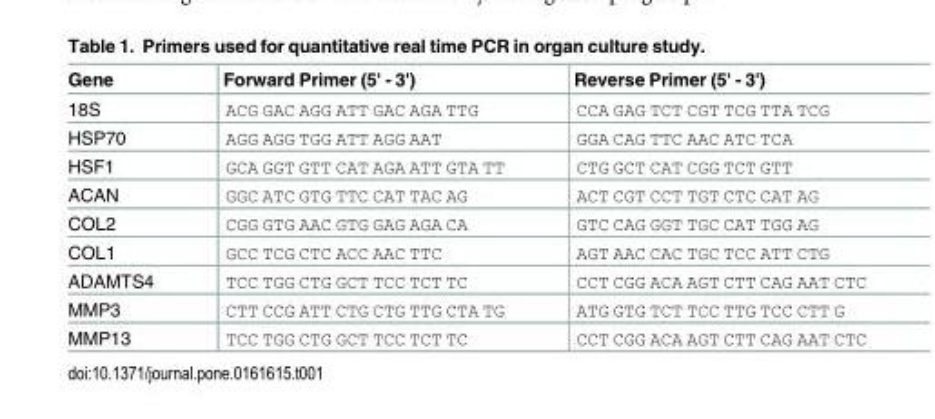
<table><thead><tr><td>Gene</td><td>Forward Primer (5&#x27; - 3&#x27;)</td><td>Reverse Primer (5&#x27; - 3&#x27;)</td></tr></thead><tbody><tr><td>18S</td><td>ACG GAC AGG ATT GAC AGA TTG</td><td>CCA GAG TCT CGT TCG TTA TCG</td></tr><tr><td>HSP70</td><td>AGG AGG TGG ATT AGG AAT</td><td>GGA CAG TTC AAC ATC TCA</td></tr><tr><td>HSF1</td><td>GCA GGT GTT CAT AGA ATT GTA TT</td><td>CTG GCT CAT CGG TCT GTT</td></tr><tr><td>ACAN</td><td>GGC ATC GTG TTC CAT TAC AG</td><td>ACT CGT CCT TGT CTC CAT AG</td></tr><tr><td>COL2</td><td>CGG GTG AAC GTG GAG AGA CA</td><td>GTC CAG GGT TGC CAT TGG AG</td></tr><tr><td>COL1</td><td>GCC TCG CTC ACC AAC TTC</td><td>AGT AAC CAC TGC TCC ATT CTG</td></tr><tr><td>ADAMTS4</td><td>TCC TGG CTG GCT TCC TCT TC</td><td>CCT CGG ACA AGT CTT CAG AAT CTC</td></tr><tr><td>MMP3</td><td>CTT CCG ATT CTG CTG TTG CTA TG</td><td>ATG GTG TCT TCC TTG TCC CTT G</td></tr><tr><td>MMP13</td><td>TCC TGG CTG GCT TCC TCT TC</td><td>CCT CGG ACA AGT CTT CAG AAT CTC</td></tr></tbody></table>